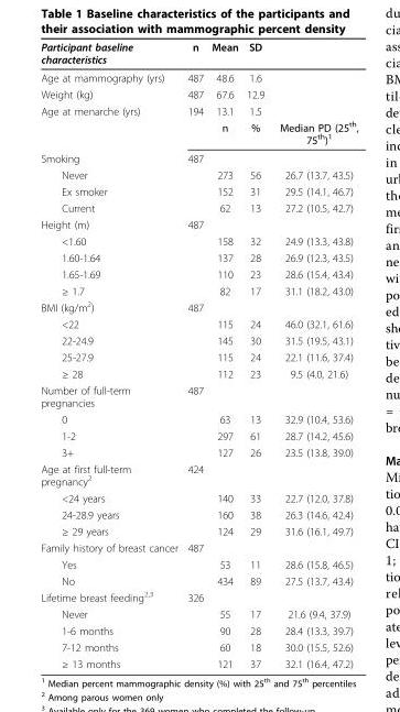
<table><thead><tr><td>Participant baseline characteristics</td><td>n</td><td>Mean</td><td>SD</td><td></td></tr></thead><tbody><tr><td>Age at mammography (yrs)</td><td>487</td><td>48.6</td><td>1.6</td><td></td></tr><tr><td>Weight (kg)</td><td>487</td><td>67.6</td><td>12.9</td><td></td></tr><tr><td rowspan="2">Age at menarche (yrs)</td><td>194</td><td>13.1</td><td>1.5</td><td></td></tr><tr><td></td><td>n</td><td>%</td><td>Median PD (25<sup>th</sup>, 75<sup>th</sup>)<sup>1</sup></td></tr><tr><td>Smoking</td><td>487</td><td></td><td></td><td></td></tr><tr><td>Never</td><td></td><td>273</td><td>56</td><td>26.7 (13.7, 43.5)</td></tr><tr><td>Ex smoker</td><td></td><td>152</td><td>31</td><td>29.5 (14.1, 46.7)</td></tr><tr><td>Current</td><td></td><td>62</td><td>13</td><td>27.2 (10.5, 42.7)</td></tr><tr><td>Height (m)</td><td>487</td><td></td><td></td><td></td></tr><tr><td>&lt;1.60</td><td></td><td>158</td><td>32</td><td>24.9 (13.3, 43.8)</td></tr><tr><td>1.60-1.64</td><td></td><td>137</td><td>28</td><td>26.9 (12.3, 43.5)</td></tr><tr><td>1.65-1.69</td><td></td><td>110</td><td>23</td><td>28.6 (15.4, 43.4)</td></tr><tr><td>≥ 1.7</td><td></td><td>82</td><td>17</td><td>31.1 (18.2, 43.0)</td></tr><tr><td>BMI (kg/m<sup>2</sup>)</td><td>487</td><td></td><td></td><td></td></tr><tr><td>&lt;22</td><td></td><td>115</td><td>24</td><td>46.0 (32.1, 61.6)</td></tr><tr><td>22-24.9</td><td></td><td>145</td><td>30</td><td>31.5 (19.5, 43.1)</td></tr><tr><td>25-27.9</td><td></td><td>115</td><td>24</td><td>22.1 (11.6, 37.4)</td></tr><tr><td>≥ 28</td><td></td><td>112</td><td>23</td><td>9.5 (4.0, 21.6)</td></tr><tr><td>Number of full-term pregnancies</td><td>487</td><td></td><td></td><td></td></tr><tr><td>0</td><td></td><td>63</td><td>13</td><td>32.9 (10.4, 53.6)</td></tr><tr><td>1-2</td><td></td><td>297</td><td>61</td><td>28.7 (14.2, 45.6)</td></tr><tr><td>3+</td><td></td><td>127</td><td>26</td><td>23.5 (13.8, 39.0)</td></tr><tr><td>Age at first full-term pregnancy<sup>2</sup></td><td>424</td><td></td><td></td><td></td></tr><tr><td>&lt;24 years</td><td></td><td>140</td><td>33</td><td>22.7 (12.0, 37.8)</td></tr><tr><td>24-28.9 years</td><td></td><td>160</td><td>38</td><td>26.3 (14.6, 42.4)</td></tr><tr><td>≥ 29 years</td><td></td><td>124</td><td>29</td><td>31.6 (16.1, 49.7)</td></tr><tr><td>Family history of breast cancer</td><td>487</td><td></td><td></td><td></td></tr><tr><td>Yes</td><td></td><td>53</td><td>11</td><td>28.6 (15.8, 46.5)</td></tr><tr><td>No</td><td></td><td>434</td><td>89</td><td>27.5 (13.7, 43.4)</td></tr><tr><td>Lifetime breast feeding<sup>2,3</sup></td><td>326</td><td></td><td></td><td></td></tr><tr><td>Never</td><td></td><td>55</td><td>17</td><td>21.6 (9.4, 37.9)</td></tr><tr><td>1-6 months</td><td></td><td>90</td><td>28</td><td>28.4 (13.3, 39.7)</td></tr><tr><td>7-12 months</td><td></td><td>60</td><td>18</td><td>30.0 (15.5, 52.6)</td></tr><tr><td>≥ 13 months</td><td></td><td>121</td><td>37</td><td>32.1 (16.4, 47.2)</td></tr></tbody></table>